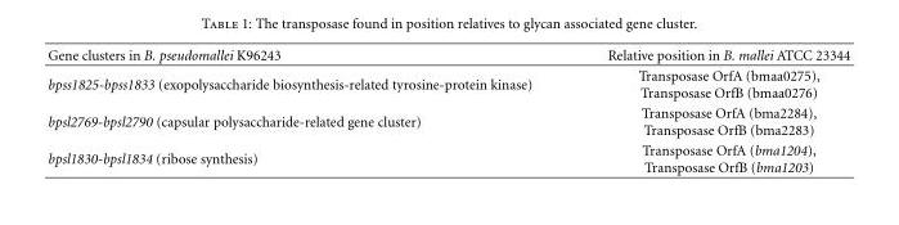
<table><thead><tr><td>Gene clusters in B. pseudomallei K96243</td><td>Relative position in B. mallei ATCC 23344</td></tr></thead><tbody><tr><td>bpss1825-bpss1833 (exopolysaccharide biosynthesis-related tyrosine-protein kinase)</td><td>Transposase OrfA (bmaa0275), Transposase OrfB (bmaa0276)</td></tr><tr><td>bpsl2769-bpsl2790 (capsular polysaccharide-related gene cluster)</td><td>Transposase OrfA (bma2284), Transposase OrfB (bma2283)</td></tr><tr><td>bpsl1830-bpsl1834 (ribose synthesis)</td><td>Transposase OrfA (bma1204), Transposase OrfB (bma1203)</td></tr></tbody></table>